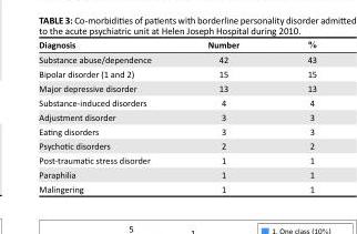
<table><thead><tr><td>Diagnosis</td><td>Number</td><td>%</td></tr></thead><tbody><tr><td>Substance abuse/dependence</td><td>42</td><td>43</td></tr><tr><td>Bipolar disorder (1 and 2)</td><td>15</td><td>15</td></tr><tr><td>Major depressive disorder</td><td>13</td><td>13</td></tr><tr><td>Substance-induced disorders</td><td>4</td><td>4</td></tr><tr><td>Adjustment disorder</td><td>3</td><td>3</td></tr><tr><td>Eating disorders</td><td>3</td><td>3</td></tr><tr><td>Psychotic disorders</td><td>2</td><td>2</td></tr><tr><td>Post-traumatic stress disorder</td><td>1</td><td>1</td></tr><tr><td>Paraphilia</td><td>1</td><td>1</td></tr><tr><td>Malingering</td><td>1</td><td>1</td></tr></tbody></table>